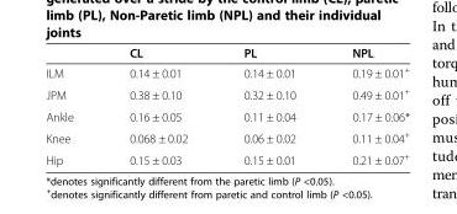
<table><thead><tr><td></td><td>CL</td><td>PL</td><td>NPL</td></tr></thead><tbody><tr><td>ILM</td><td>0.14 ± 0.01</td><td>0.14 ± 0.01</td><td>0.19 ± 0.01<sup>+</sup></td></tr><tr><td>JPM</td><td>0.38 ± 0.10</td><td>0.32 ± 0.10</td><td>0.49 ± 0.01<sup>+</sup></td></tr><tr><td>Ankle</td><td>0.16 ± 0.05</td><td>0.11 ± 0.04</td><td>0.17 ± 0.06*</td></tr><tr><td>Knee</td><td>0.068 ± 0.02</td><td>0.06 ± 0.02</td><td>0.11 ± 0.04<sup>+</sup></td></tr><tr><td>Hip</td><td>0.15 ± 0.03</td><td>0.15 ± 0.01</td><td>0.21 ± 0.07<sup>+</sup></td></tr></tbody></table>